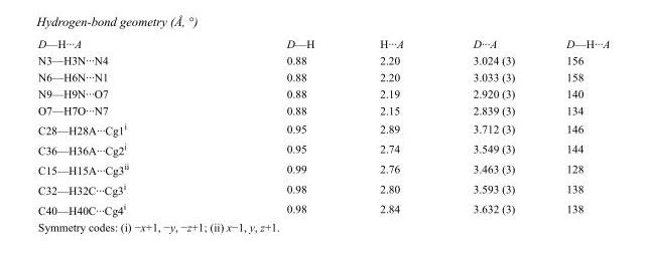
<table><tbody><tr><td>D—H···A</td><td>D—H</td><td>H···A</td><td>D···A</td><td>D—H···A</td></tr><tr><td>N3—H3N···N4</td><td>0.88</td><td>2.20</td><td>3.024 (3)</td><td>156</td></tr><tr><td>N6—H6N···N1</td><td>0.88</td><td>2.20</td><td>3.033 (3)</td><td>158</td></tr><tr><td>N9—H9N···O7</td><td>0.88</td><td>2.19</td><td>2.920 (3)</td><td>140</td></tr><tr><td>O7—H7O···N7</td><td>0.88</td><td>2.15</td><td>2.839 (3)</td><td>134</td></tr><tr><td>C28—H28A···Cg1<sup>i</sup></td><td>0.95</td><td>2.89</td><td>3.712 (3)</td><td>146</td></tr><tr><td>C36—H36A···Cg2<sup>i</sup></td><td>0.95</td><td>2.74</td><td>3.549 (3)</td><td>144</td></tr><tr><td>C15—H15A···Cg3<sup>ii</sup></td><td>0.99</td><td>2.76</td><td>3.463 (3)</td><td>128</td></tr><tr><td>C32—H32C···Cg3<sup>i</sup></td><td>0.98</td><td>2.80</td><td>3.593 (3)</td><td>138</td></tr><tr><td>C40—H40C···Cg4<sup>i</sup></td><td>0.98</td><td>2.84</td><td>3.632 (3)</td><td>138</td></tr></tbody></table>